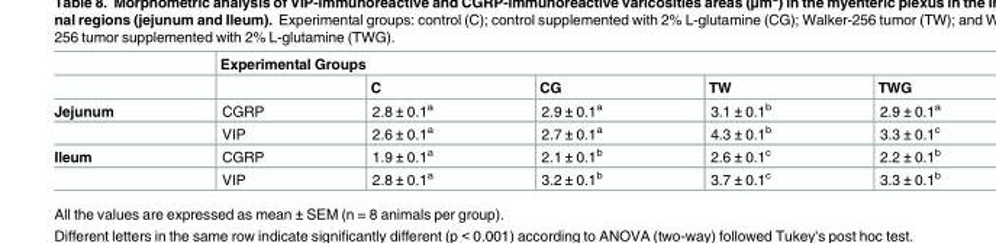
<table><thead><tr><td rowspan="2"></td><td colspan="5">Experimental Groups</td></tr><tr><td></td><td>C</td><td>CG</td><td>TW</td><td>TWG</td></tr></thead><tbody><tr><td rowspan="2">Jejunum</td><td>CGRP</td><td>2.8 ± 0.1<sup>a</sup></td><td>2.9 ± 0.1<sup>a</sup></td><td>3.1 ± 0.1<sup>b</sup></td><td>2.9 ± 0.1<sup>a</sup></td></tr><tr><td>VIP</td><td>2.6 ± 0.1<sup>a</sup></td><td>2.7 ± 0.1<sup>a</sup></td><td>4.3 ± 0.1<sup>b</sup></td><td>3.3 ± 0.1<sup>c</sup></td></tr><tr><td rowspan="2">Ileum</td><td>CGRP</td><td>1.9 ± 0.1<sup>a</sup></td><td>2.1 ± 0.1<sup>b</sup></td><td>2.6 ± 0.1<sup>c</sup></td><td>2.2 ± 0.1<sup>b</sup></td></tr><tr><td>VIP</td><td>2.8 ± 0.1<sup>a</sup></td><td>3.2 ± 0.1<sup>b</sup></td><td>3.7 ± 0.1<sup>c</sup></td><td>3.3 ± 0.1<sup>b</sup></td></tr></tbody></table>